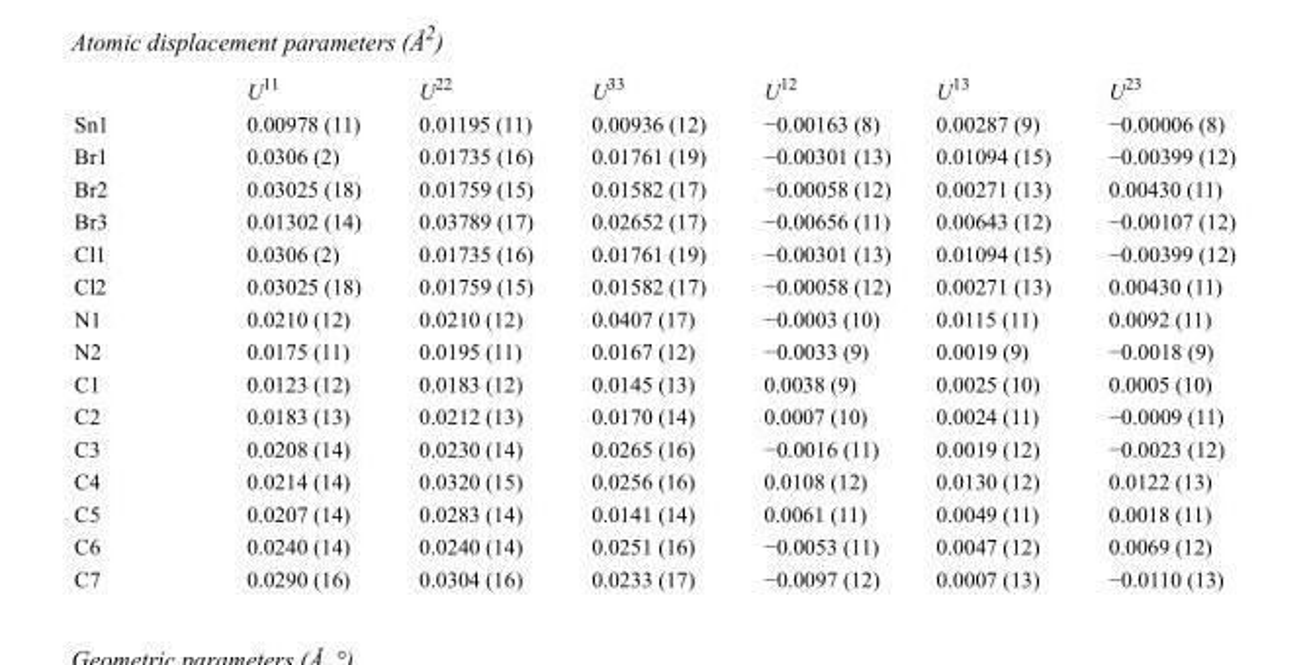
<table><thead><tr><td></td><td>U<sup>11</sup></td><td>U<sup>22</sup></td><td>U<sup>33</sup></td><td>U<sup>12</sup></td><td>U<sup>13</sup></td><td>U<sup>23</sup></td></tr></thead><tbody><tr><td>Sn1</td><td>0.00978 (11)</td><td>0.01195 (11)</td><td>0.00936 (12)</td><td>−0.00163 (8)</td><td>0.00287 (9)</td><td>−0.00006 (8)</td></tr><tr><td>Br1</td><td>0.0306 (2)</td><td>0.01735 (16)</td><td>0.01761 (19)</td><td>−0.00301 (13)</td><td>0.01094 (15)</td><td>−0.00399 (12)</td></tr><tr><td>Br2</td><td>0.03025 (18)</td><td>0.01759 (15)</td><td>0.01582 (17)</td><td>−0.00058 (12)</td><td>0.00271 (13)</td><td>0.00430 (11)</td></tr><tr><td>Br3</td><td>0.01302 (14)</td><td>0.03789 (17)</td><td>0.02652 (17)</td><td>−0.00656 (11)</td><td>0.00643 (12)</td><td>−0.00107 (12)</td></tr><tr><td>Cl1</td><td>0.0306 (2)</td><td>0.01735 (16)</td><td>0.01761 (19)</td><td>−0.00301 (13)</td><td>0.01094 (15)</td><td>−0.00399 (12)</td></tr><tr><td>Cl2</td><td>0.03025 (18)</td><td>0.01759 (15)</td><td>0.01582 (17)</td><td>−0.00058 (12)</td><td>0.00271 (13)</td><td>0.00430 (11)</td></tr><tr><td>N1</td><td>0.0210 (12)</td><td>0.0210 (12)</td><td>0.0407 (17)</td><td>−0.0003 (10)</td><td>0.0115 (11)</td><td>0.0092 (11)</td></tr><tr><td>N2</td><td>0.0175 (11)</td><td>0.0195 (11)</td><td>0.0167 (12)</td><td>−0.0033 (9)</td><td>0.0019 (9)</td><td>−0.0018 (9)</td></tr><tr><td>C1</td><td>0.0123 (12)</td><td>0.0183 (12)</td><td>0.0145 (13)</td><td>0.0038 (9)</td><td>0.0025 (10)</td><td>0.0005 (10)</td></tr><tr><td>C2</td><td>0.0183 (13)</td><td>0.0212 (13)</td><td>0.0170 (14)</td><td>0.0007 (10)</td><td>0.0024 (11)</td><td>−0.0009 (11)</td></tr><tr><td>C3</td><td>0.0208 (14)</td><td>0.0230 (14)</td><td>0.0265 (16)</td><td>−0.0016 (11)</td><td>0.0019 (12)</td><td>−0.0023 (12)</td></tr><tr><td>C4</td><td>0.0214 (14)</td><td>0.0320 (15)</td><td>0.0256 (16)</td><td>0.0108 (12)</td><td>0.0130 (12)</td><td>0.0122 (13)</td></tr><tr><td>C5</td><td>0.0207 (14)</td><td>0.0283 (14)</td><td>0.0141 (14)</td><td>0.0061 (11)</td><td>0.0049 (11)</td><td>0.0018 (11)</td></tr><tr><td>C6</td><td>0.0240 (14)</td><td>0.0240 (14)</td><td>0.0251 (16)</td><td>−0.0053 (11)</td><td>0.0047 (12)</td><td>0.0069 (12)</td></tr><tr><td>C7</td><td>0.0290 (16)</td><td>0.0304 (16)</td><td>0.0233 (17)</td><td>−0.0097 (12)</td><td>0.0007 (13)</td><td>−0.0110 (13)</td></tr></tbody></table>